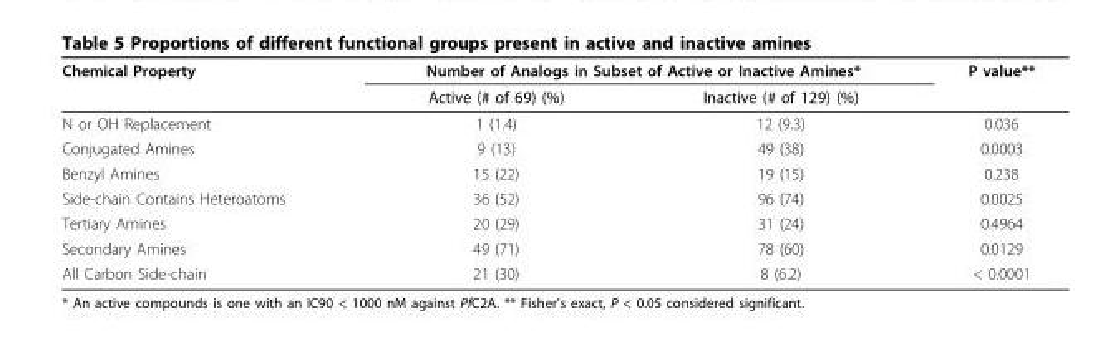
<table><thead><tr><td rowspan="2">Chemical Property</td><td colspan="2">Number of Analogs in Subset of Active or Inactive Amines*</td><td rowspan="2">P value**</td></tr><tr><td>Active (# of 69) (%)</td><td>Inactive (# of 129) (%)</td></tr></thead><tbody><tr><td>N or OH Replacement</td><td>1 (1.4)</td><td>12 (9.3)</td><td>0.036</td></tr><tr><td>Conjugated Amines</td><td>9 (13)</td><td>49 (38)</td><td>0.0003</td></tr><tr><td>Benzyl Amines</td><td>15 (22)</td><td>19 (15)</td><td>0.238</td></tr><tr><td>Side-chain Contains Heteroatoms</td><td>36 (52)</td><td>96 (74)</td><td>0.0025</td></tr><tr><td>Tertiary Amines</td><td>20 (29)</td><td>31 (24)</td><td>0.4964</td></tr><tr><td>Secondary Amines</td><td>49 (71)</td><td>78 (60)</td><td>0.0129</td></tr><tr><td>All Carbon Side-chain</td><td>21 (30)</td><td>8 (6.2)</td><td>&lt; 0.0001</td></tr></tbody></table>